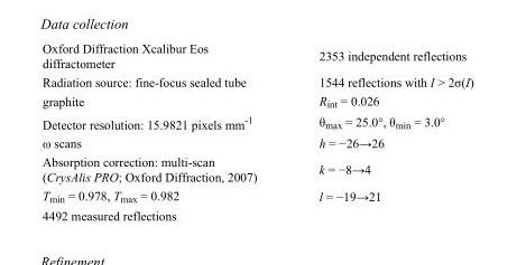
<table><tbody><tr><td>Oxford Diffraction Xcalibur Eos diffractometer</td><td>2353 independent reflections</td></tr><tr><td>Radiation source: fine-focus sealed tube</td><td>1544 reflections with I &gt; 2σ(I)</td></tr><tr><td>graphite</td><td>R<sub>int</sub> = 0.026</td></tr><tr><td>Detector resolution: 15.9821 pixels mm<sup>-1</sup></td><td>θ<sub>max</sub> = 25.0°, θ<sub>min</sub> = 3.0°</td></tr><tr><td>ω scans</td><td>h = −26→26</td></tr><tr><td>Absorption correction: multi-scan (CrysAlis PRO; Oxford Diffraction, 2007)</td><td>k = −8→4</td></tr><tr><td>T<sub>min</sub> = 0.978, T<sub>max</sub> = 0.982</td><td>l = −19→21</td></tr><tr><td>4492 measured reflections</td><td></td></tr></tbody></table>